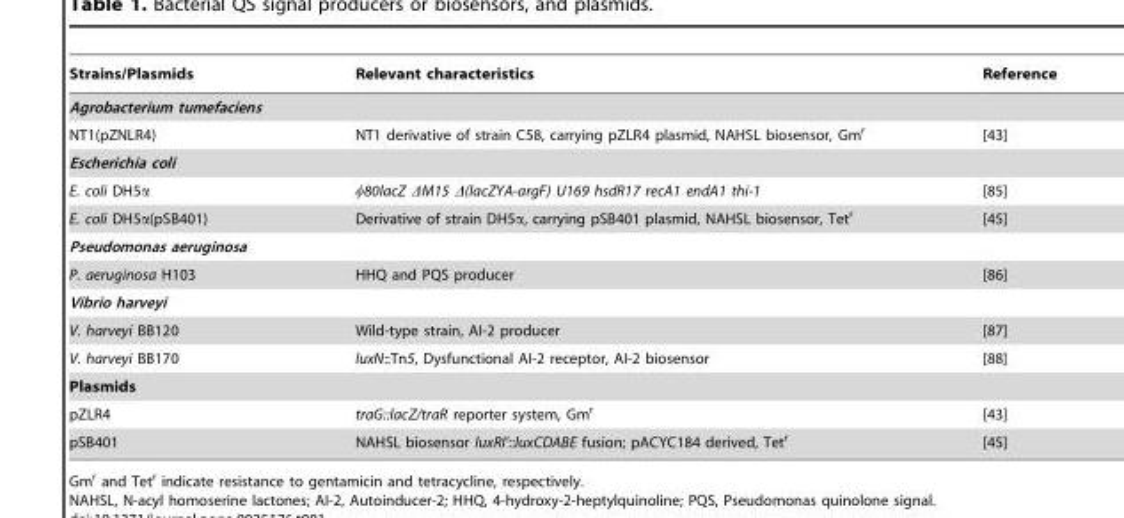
<table><thead><tr><td>Strains/Plasmids</td><td>Relevant characteristics</td><td>Reference</td></tr></thead><tbody><tr><td colspan="3">Agrobacterium tumefaciens</td></tr><tr><td>NT1(pZNLR4)</td><td>NT1 derivative of strain C58, carrying pZLR4 plasmid, NAHSL biosensor, Gm<sup>r</sup></td><td>[43]</td></tr><tr><td colspan="3">Escherichia coli</td></tr><tr><td>E. coli DH5α</td><td>φ80lacZ ΔM15 Δ(lacZYA-argF) U169 hsdR17 recA1 endA1 thi-1</td><td>[85]</td></tr><tr><td>E. coli DH5α(pSB401)</td><td>Derivative of strain DH5α, carrying pSB401 plasmid, NAHSL biosensor, Tet<sup>r</sup></td><td>[45]</td></tr><tr><td colspan="3">Pseudomonas aeruginosa</td></tr><tr><td>P. aeruginosa H103</td><td>HHQ and PQS producer</td><td>[86]</td></tr><tr><td colspan="3">Vibrio harveyi</td></tr><tr><td>V. harveyi BB120</td><td>Wild-type strain, AI-2 producer</td><td>[87]</td></tr><tr><td>V. harveyi BB170</td><td>luxN::Tn5, Dysfunctional AI-2 receptor, AI-2 biosensor</td><td>[88]</td></tr><tr><td colspan="3">Plasmids</td></tr><tr><td>pZLR4</td><td>traG::lacZ/traR reporter system, Gm<sup>r</sup></td><td>[43]</td></tr><tr><td>pSB401</td><td>NAHSL biosensor luxRI’::luxCDABE fusion; pACYC184 derived, Tet<sup>r</sup></td><td>[45]</td></tr></tbody></table>